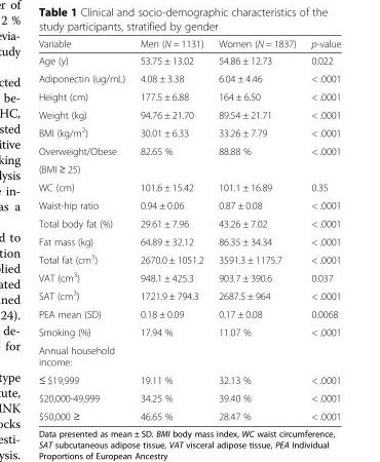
<table><thead><tr><td>Variable</td><td>Men (N = 1131)</td><td>Women (N = 1837)</td><td>p-value</td></tr></thead><tbody><tr><td>Age (y)</td><td>53.75 ± 13.02</td><td>54.86 ± 12.73</td><td>0.022</td></tr><tr><td>Adiponectin (ug/mL)</td><td>4.08 ± 3.38</td><td>6.04 ± 4.46</td><td>&lt; .0001</td></tr><tr><td>Height (cm)</td><td>177.5 ± 6.88</td><td>164 ± 6.50</td><td>&lt; .0001</td></tr><tr><td>Weight (kg)</td><td>94.76 ± 21.70</td><td>89.54 ± 21.71</td><td>&lt; .0001</td></tr><tr><td>BMI (kg/m<sup>2</sup>)</td><td>30.01 ± 6.33</td><td>33.26 ± 7.79</td><td>&lt; .0001</td></tr><tr><td>Overweight/Obese</td><td>82.65 %</td><td>88.88 %</td><td>&lt; .0001</td></tr><tr><td colspan="4">(BMI ≥ 25)</td></tr><tr><td>WC (cm)</td><td>101.6 ± 15.42</td><td>101.1 ± 16.89</td><td>0.35</td></tr><tr><td>Waist-hip ratio</td><td>0.94 ± 0.06</td><td>0.87 ± 0.08</td><td>&lt; .0001</td></tr><tr><td>Total body fat (%)</td><td>29.61 ± 7.96</td><td>43.26 ± 7.02</td><td>&lt; .0001</td></tr><tr><td>Fat mass (kg)</td><td>64.89 ± 32.12</td><td>86.35 ± 34.34</td><td>&lt; .0001</td></tr><tr><td>Total fat (cm<sup>3</sup>)</td><td>2670.0 ± 1051.2</td><td>3591.3 ± 1175.7</td><td>&lt; .0001</td></tr><tr><td>VAT (cm<sup>3</sup>)</td><td>948.1 ± 425.3</td><td>903.7 ± 390.6</td><td>0.037</td></tr><tr><td>SAT (cm<sup>3</sup>)</td><td>1721.9 ± 794.3</td><td>2687.5 ± 964</td><td>&lt; .0001</td></tr><tr><td>PEA mean (SD)</td><td>0.18 ± 0.09</td><td>0.17 ± 0.08</td><td>0.0068</td></tr><tr><td>Smoking (%)</td><td>17.94 %</td><td>11.07 %</td><td>&lt; .0001</td></tr><tr><td colspan="4">Annual household income:</td></tr><tr><td>≤ $19,999</td><td>19.11 %</td><td>32.13 %</td><td>&lt; .0001</td></tr><tr><td>$20,000-49,999</td><td>34.25 %</td><td>39.40 %</td><td>&lt; .0001</td></tr><tr><td>$50,000 ≥</td><td>46.65 %</td><td>28.47 %</td><td>&lt; .0001</td></tr></tbody></table>